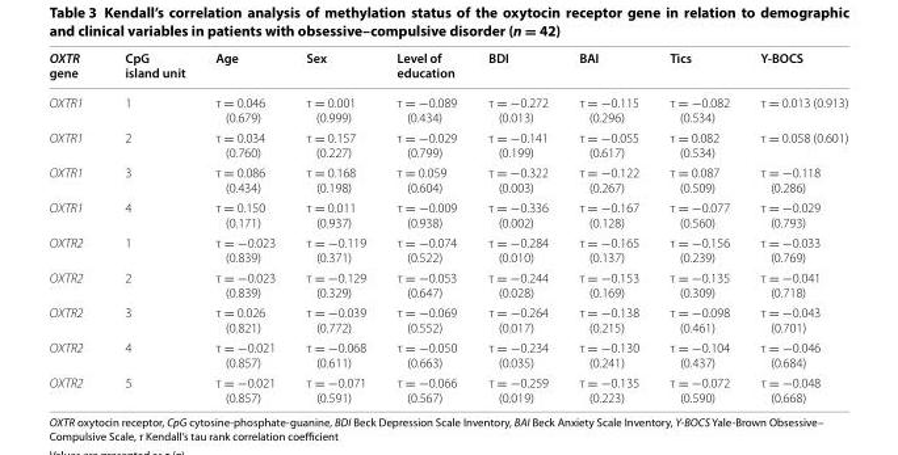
<table><thead><tr><td>OXTR gene</td><td>CpG island unit</td><td>Age</td><td>Sex</td><td>Level of education</td><td>BDI</td><td>BAI</td><td>Tics</td><td>Y-BOCS</td></tr></thead><tbody><tr><td>OXTR1</td><td>1</td><td>τ = 0.046 (0.679)</td><td>τ = 0.001 (0.999)</td><td>τ = −0.089 (0.434)</td><td>τ = −0.272 (0.013)</td><td>τ = −0.115 (0.296)</td><td>τ = −0.082 (0.534)</td><td>τ = 0.013 (0.913)</td></tr><tr><td>OXTR1</td><td>2</td><td>τ = 0.034 (0.760)</td><td>τ = 0.157 (0.227)</td><td>τ = −0.029 (0.799)</td><td>τ = −0.141 (0.199)</td><td>τ = −0.055 (0.617)</td><td>τ = 0.082 (0.534)</td><td>τ = 0.058 (0.601)</td></tr><tr><td>OXTR1</td><td>3</td><td>τ = 0.086 (0.434)</td><td>τ = 0.168 (0.198)</td><td>τ = 0.059 (0.604)</td><td>τ = −0.322 (0.003)</td><td>τ = −0.122 (0.267)</td><td>τ = 0.087 (0.509)</td><td>τ = −0.118 (0.286)</td></tr><tr><td>OXTR1</td><td>4</td><td>τ = 0.150 (0.171)</td><td>τ = 0.011 (0.937)</td><td>τ = −0.009 (0.938)</td><td>τ = −0.336 (0.002)</td><td>τ = −0.167 (0.128)</td><td>τ = −0.077 (0.560)</td><td>τ = −0.029 (0.793)</td></tr><tr><td>OXTR2</td><td>1</td><td>τ = −0.023 (0.839)</td><td>τ = −0.119 (0.371)</td><td>τ = −0.074 (0.522)</td><td>τ = −0.284 (0.010)</td><td>τ = −0.165 (0.137)</td><td>τ = −0.156 (0.239)</td><td>τ = −0.033 (0.769)</td></tr><tr><td>OXTR2</td><td>2</td><td>τ = −0.023 (0.839)</td><td>τ = −0.129 (0.329)</td><td>τ = −0.053 (0.647)</td><td>τ = −0.244 (0.028)</td><td>τ = −0.153 (0.169)</td><td>τ = −0.135 (0.309)</td><td>τ = −0.041 (0.718)</td></tr><tr><td>OXTR2</td><td>3</td><td>τ = 0.026 (0.821)</td><td>τ = −0.039 (0.772)</td><td>τ = −0.069 (0.552)</td><td>τ = −0.264 (0.017)</td><td>τ = −0.138 (0.215)</td><td>τ = −0.098 (0.461)</td><td>τ = −0.043 (0.701)</td></tr><tr><td>OXTR2</td><td>4</td><td>τ = −0.021 (0.857)</td><td>τ = −0.068 (0.611)</td><td>τ = −0.050 (0.663)</td><td>τ = −0.234 (0.035)</td><td>τ = −0.130 (0.241)</td><td>τ = −0.104 (0.437)</td><td>τ = −0.046 (0.684)</td></tr><tr><td>OXTR2</td><td>5</td><td>τ = −0.021 (0.857)</td><td>τ = −0.071 (0.591)</td><td>τ = −0.066 (0.567)</td><td>τ = −0.259 (0.019)</td><td>τ = −0.135 (0.223)</td><td>τ = −0.072 (0.590)</td><td>τ = −0.048 (0.668)</td></tr></tbody></table>